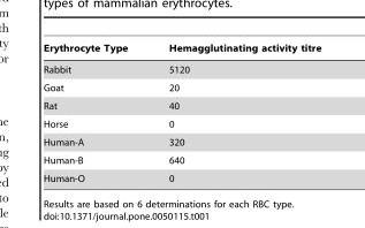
<table><thead><tr><td>Erythrocyte Type</td><td>Hemagglutinating activity titre</td></tr></thead><tbody><tr><td>Rabbit</td><td>5120</td></tr><tr><td>Goat</td><td>20</td></tr><tr><td>Rat</td><td>40</td></tr><tr><td>Horse</td><td>0</td></tr><tr><td>Human-A</td><td>320</td></tr><tr><td>Human-B</td><td>640</td></tr><tr><td>Human-O</td><td>0</td></tr></tbody></table>